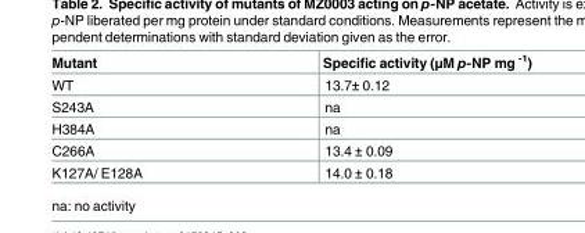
<table><thead><tr><td>Mutant</td><td>Specific activity (μM p-NP mg <sup>-1</sup>)</td></tr></thead><tbody><tr><td>WT</td><td>13.7± 0.12</td></tr><tr><td>S243A</td><td>na</td></tr><tr><td>H384A</td><td>na</td></tr><tr><td>C266A</td><td>13.4 ± 0.09</td></tr><tr><td>K127A/ E128A</td><td>14.0 ± 0.18</td></tr></tbody></table>